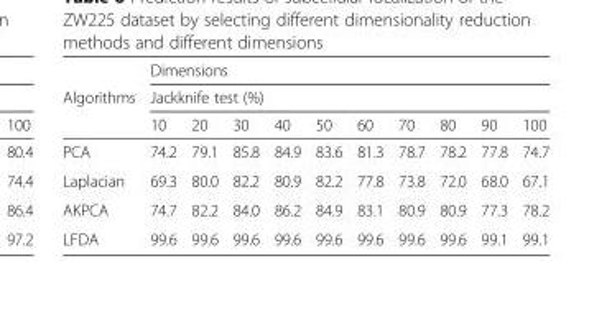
<table><thead><tr><td rowspan="3">Algorithms</td><td rowspan="2" colspan="10">Dimensions Jackknife test (%)</td></tr><tr></tr><tr><td>10</td><td>20</td><td>30</td><td>40</td><td>50</td><td>60</td><td>70</td><td>80</td><td>90</td><td>100</td></tr></thead><tbody><tr><td>PCA</td><td>74.2</td><td>79.1</td><td>85.8</td><td>84.9</td><td>83.6</td><td>81.3</td><td>78.7</td><td>78.2</td><td>77.8</td><td>74.7</td></tr><tr><td>Laplacian</td><td>69.3</td><td>80.0</td><td>82.2</td><td>80.9</td><td>82.2</td><td>77.8</td><td>73.8</td><td>72.0</td><td>68.0</td><td>67.1</td></tr><tr><td>AKPCA</td><td>74.7</td><td>82.2</td><td>84.0</td><td>86.2</td><td>84.9</td><td>83.1</td><td>80.9</td><td>80.9</td><td>77.3</td><td>78.2</td></tr><tr><td>LFDA</td><td>99.6</td><td>99.6</td><td>99.6</td><td>99.6</td><td>99.6</td><td>99.6</td><td>99.6</td><td>99.6</td><td>99.1</td><td>99.1</td></tr></tbody></table>